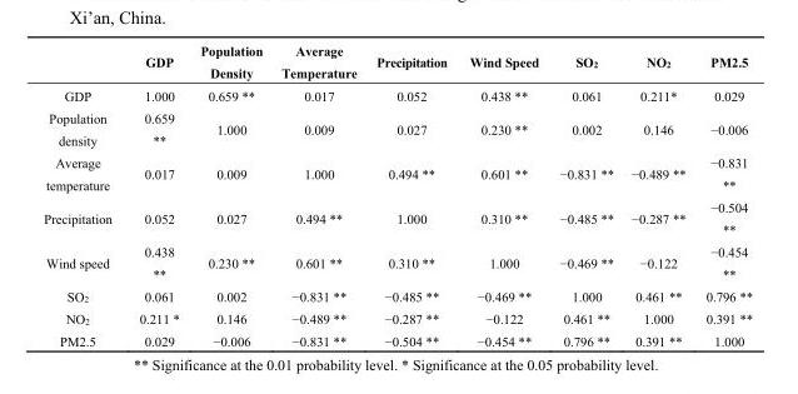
<table><thead><tr><td></td><td>GDP</td><td>Population Density</td><td>Average Temperature</td><td>Precipitation</td><td>Wind Speed</td><td>SO<sub>2</sub></td><td>NO<sub>2</sub></td><td>PM2.5</td></tr></thead><tbody><tr><td>GDP</td><td>1.000</td><td>0.659 **</td><td>0.017</td><td>0.052</td><td>0.438 **</td><td>0.061</td><td>0.211*</td><td>0.029</td></tr><tr><td>Population density</td><td>0.659 **</td><td>1.000</td><td>0.009</td><td>0.027</td><td>0.230 **</td><td>0.002</td><td>0.146</td><td>−0.006</td></tr><tr><td>Average temperature</td><td>0.017</td><td>0.009</td><td>1.000</td><td>0.494 **</td><td>0.601 **</td><td>−0.831 **</td><td>−0.489 **</td><td>−0.831 **</td></tr><tr><td>Precipitation</td><td>0.052</td><td>0.027</td><td>0.494 **</td><td>1.000</td><td>0.310 **</td><td>−0.485 **</td><td>−0.287 **</td><td>−0.504 **</td></tr><tr><td>Wind speed</td><td>0.438 **</td><td>0.230 **</td><td>0.601 **</td><td>0.310 **</td><td>1.000</td><td>−0.469 **</td><td>−0.122</td><td>−0.454 **</td></tr><tr><td>SO<sub>2</sub></td><td>0.061</td><td>0.002</td><td>−0.831 **</td><td>−0.485 **</td><td>−0.469 **</td><td>1.000</td><td>0.461 **</td><td>0.796 **</td></tr><tr><td>NO<sub>2</sub></td><td>0.211 *</td><td>0.146</td><td>−0.489 **</td><td>−0.287 **</td><td>−0.122</td><td>0.461 **</td><td>1.000</td><td>0.391 **</td></tr><tr><td>PM2.5</td><td>0.029</td><td>−0.006</td><td>−0.831 **</td><td>−0.504 **</td><td>−0.454 **</td><td>0.796 **</td><td>0.391 **</td><td>1.000</td></tr></tbody></table>